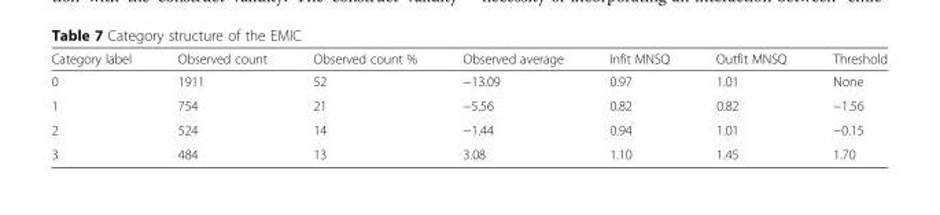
<table><thead><tr><td>Category label</td><td>Observed count</td><td>Observed count %</td><td>Observed average</td><td>Infit MNSQ</td><td>Outfit MNSQ</td><td>Threshold</td></tr></thead><tbody><tr><td>0</td><td>1911</td><td>52</td><td>−13.09</td><td>0.97</td><td>1.01</td><td>None</td></tr><tr><td>1</td><td>754</td><td>21</td><td>−5.56</td><td>0.82</td><td>0.82</td><td>−1.56</td></tr><tr><td>2</td><td>524</td><td>14</td><td>−1.44</td><td>0.94</td><td>1.01</td><td>−0.15</td></tr><tr><td>3</td><td>484</td><td>13</td><td>3.08</td><td>1.10</td><td>1.45</td><td>1.70</td></tr></tbody></table>